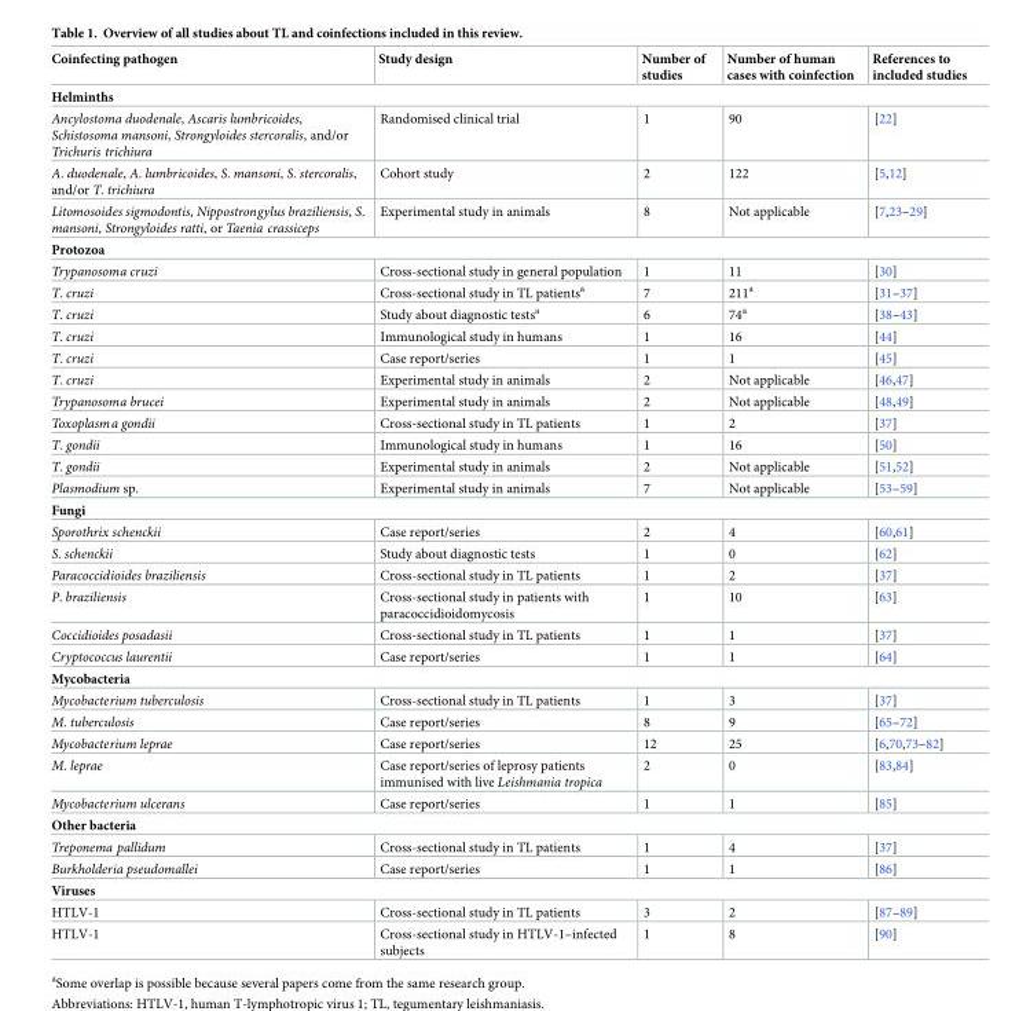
<table><thead><tr><td>Coinfecting pathogen</td><td>Study design</td><td>Number of studies</td><td>Number of human cases with coinfection</td><td>References to included studies</td></tr></thead><tbody><tr><td colspan="5">Helminths</td></tr><tr><td>Ancylostoma duodenale, Ascaris lumbricoides, Schistosoma mansoni, Strongyloides stercoralis, and/or Trichuris trichiura</td><td>Randomised clinical trial</td><td>1</td><td>90</td><td>[22]</td></tr><tr><td>A. duodenale, A. lumbricoides, S. mansoni, S. stercoralis, and/or T. trichiura</td><td>Cohort study</td><td>2</td><td>122</td><td>[5,12]</td></tr><tr><td>Litomosoides sigmodontis, Nippostrongylus braziliensis, S. mansoni, Strongyloides ratti, or Taenia crassiceps</td><td>Experimental study in animals</td><td>8</td><td>Not applicable</td><td>[7,23–29]</td></tr><tr><td colspan="5">Protozoa</td></tr><tr><td>Trypanosoma cruzi</td><td>Cross-sectional study in general population</td><td>1</td><td>11</td><td>[30]</td></tr><tr><td>T. cruzi</td><td>Cross-sectional study in TL patients<sup>a</sup></td><td>7</td><td>211<sup>a</sup></td><td>[31–37]</td></tr><tr><td>T. cruzi</td><td>Study about diagnostic tests<sup>a</sup></td><td>6</td><td>74<sup>a</sup></td><td>[38–43]</td></tr><tr><td>T. cruzi</td><td>Immunological study in humans</td><td>1</td><td>16</td><td>[44]</td></tr><tr><td>T. cruzi</td><td>Case report/series</td><td>1</td><td>1</td><td>[45]</td></tr><tr><td>T. cruzi</td><td>Experimental study in animals</td><td>2</td><td>Not applicable</td><td>[46,47]</td></tr><tr><td>Trypanosoma brucei</td><td>Experimental study in animals</td><td>2</td><td>Not applicable</td><td>[48,49]</td></tr><tr><td>Toxoplasma gondii</td><td>Cross-sectional study in TL patients</td><td>1</td><td>2</td><td>[37]</td></tr><tr><td>T. gondii</td><td>Immunological study in humans</td><td>1</td><td>16</td><td>[50]</td></tr><tr><td>T. gondii</td><td>Experimental study in animals</td><td>2</td><td>Not applicable</td><td>[51,52]</td></tr><tr><td>Plasmodium sp.</td><td>Experimental study in animals</td><td>7</td><td>Not applicable</td><td>[53–59]</td></tr><tr><td colspan="5">Fungi</td></tr><tr><td>Sporothrix schenckii</td><td>Case report/series</td><td>2</td><td>4</td><td>[60,61]</td></tr><tr><td>S. schenckii</td><td>Study about diagnostic tests</td><td>1</td><td>0</td><td>[62]</td></tr><tr><td>Paracoccidioides braziliensis</td><td>Cross-sectional study in TL patients</td><td>1</td><td>2</td><td>[37]</td></tr><tr><td>P. braziliensis</td><td>Cross-sectional study in patients with paracoccidioidomycosis</td><td>1</td><td>10</td><td>[63]</td></tr><tr><td>Coccidioides posadasii</td><td>Cross-sectional study in TL patients</td><td>1</td><td>1</td><td>[37]</td></tr><tr><td>Cryptococcus laurentii</td><td>Case report/series</td><td>1</td><td>1</td><td>[64]</td></tr><tr><td colspan="5">Mycobacteria</td></tr><tr><td>Mycobacterium tuberculosis</td><td>Cross-sectional study in TL patients</td><td>1</td><td>3</td><td>[37]</td></tr><tr><td>M. tuberculosis</td><td>Case report/series</td><td>8</td><td>9</td><td>[65–72]</td></tr><tr><td>Mycobacterium leprae</td><td>Case report/series</td><td>12</td><td>25</td><td>[6,70,73–82]</td></tr><tr><td>M. leprae</td><td>Case report/series of leprosy patients immunised with live Leishmania tropica</td><td>2</td><td>0</td><td>[83,84]</td></tr><tr><td>Mycobacterium ulcerans</td><td>Case report/series</td><td>1</td><td>1</td><td>[85]</td></tr><tr><td colspan="5">Other bacteria</td></tr><tr><td>Treponema pallidum</td><td>Cross-sectional study in TL patients</td><td>1</td><td>4</td><td>[37]</td></tr><tr><td>Burkholderia pseudomallei</td><td>Case report/series</td><td>1</td><td>1</td><td>[86]</td></tr><tr><td colspan="5">Viruses</td></tr><tr><td>HTLV-1</td><td>Cross-sectional study in TL patients</td><td>3</td><td>2</td><td>[87–89]</td></tr><tr><td>HTLV-1</td><td>Cross-sectional study in HTLV-1–infected subjects</td><td>1</td><td>8</td><td>[90]</td></tr></tbody></table>